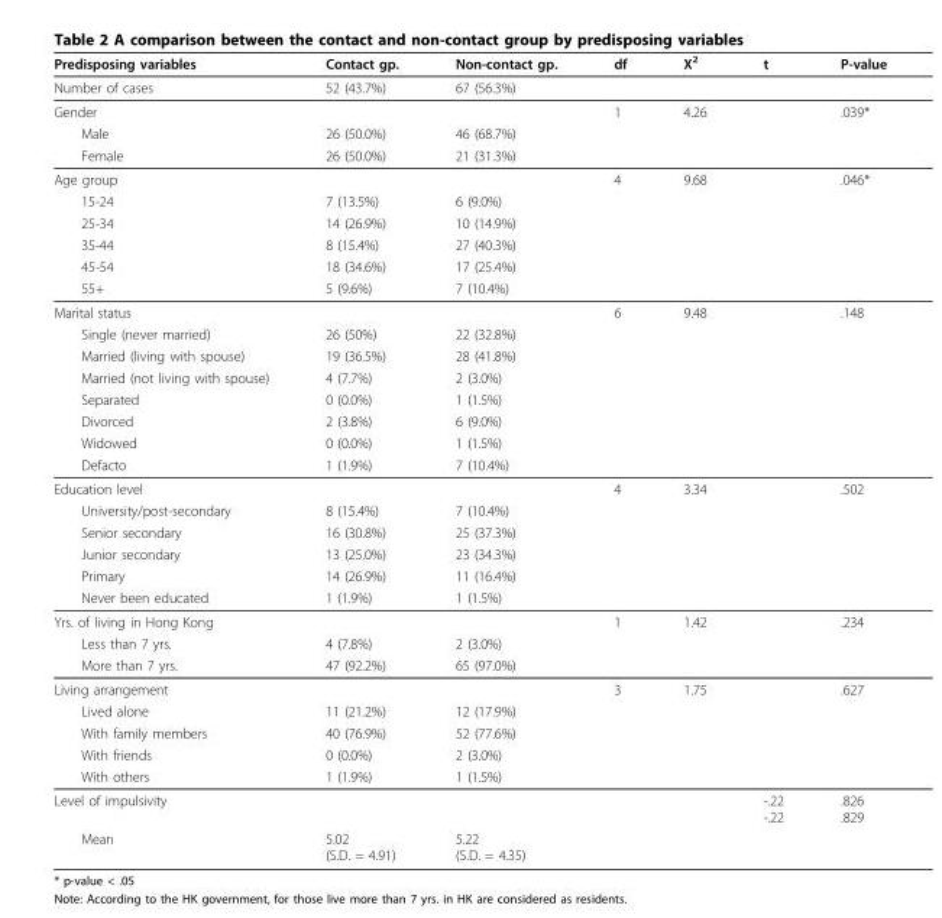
<table><thead><tr><td>Predisposing variables</td><td>Contact gp.</td><td>Non-contact gp.</td><td>df</td><td>X<sup>2</sup></td><td>t</td><td>P-value</td></tr></thead><tbody><tr><td>Number of cases</td><td>52 (43.7%)</td><td>67 (56.3%)</td><td></td><td></td><td></td><td></td></tr><tr><td colspan="3">Gender</td><td>1</td><td>4.26</td><td></td><td>.039*</td></tr><tr><td>Male</td><td>26 (50.0%)</td><td>46 (68.7%)</td><td></td><td></td><td></td><td></td></tr><tr><td>Female</td><td>26 (50.0%)</td><td>21 (31.3%)</td><td></td><td></td><td></td><td></td></tr><tr><td colspan="3">Age group</td><td>4</td><td>9.68</td><td></td><td>.046*</td></tr><tr><td>15-24</td><td>7 (13.5%)</td><td>6 (9.0%)</td><td></td><td></td><td></td><td></td></tr><tr><td>25-34</td><td>14 (26.9%)</td><td>10 (14.9%)</td><td></td><td></td><td></td><td></td></tr><tr><td>35-44</td><td>8 (15.4%)</td><td>27 (40.3%)</td><td></td><td></td><td></td><td></td></tr><tr><td>45-54</td><td>18 (34.6%)</td><td>17 (25.4%)</td><td></td><td></td><td></td><td></td></tr><tr><td>55+</td><td>5 (9.6%)</td><td>7 (10.4%)</td><td></td><td></td><td></td><td></td></tr><tr><td colspan="3">Marital status</td><td>6</td><td>9.48</td><td></td><td>.148</td></tr><tr><td>Single (never married)</td><td>26 (50%)</td><td>22 (32.8%)</td><td></td><td></td><td></td><td></td></tr><tr><td>Married (living with spouse)</td><td>19 (36.5%)</td><td>28 (41.8%)</td><td></td><td></td><td></td><td></td></tr><tr><td>Married (not living with spouse)</td><td>4 (7.7%)</td><td>2 (3.0%)</td><td></td><td></td><td></td><td></td></tr><tr><td>Separated</td><td>0 (0.0%)</td><td>1 (1.5%)</td><td></td><td></td><td></td><td></td></tr><tr><td>Divorced</td><td>2 (3.8%)</td><td>6 (9.0%)</td><td></td><td></td><td></td><td></td></tr><tr><td>Widowed</td><td>0 (0.0%)</td><td>1 (1.5%)</td><td></td><td></td><td></td><td></td></tr><tr><td>Defacto</td><td>1 (1.9%)</td><td>7 (10.4%)</td><td></td><td></td><td></td><td></td></tr><tr><td colspan="3">Education level</td><td>4</td><td>3.34</td><td></td><td>.502</td></tr><tr><td>University/post-secondary</td><td>8 (15.4%)</td><td>7 (10.4%)</td><td></td><td></td><td></td><td></td></tr><tr><td>Senior secondary</td><td>16 (30.8%)</td><td>25 (37.3%)</td><td></td><td></td><td></td><td></td></tr><tr><td>Junior secondary</td><td>13 (25.0%)</td><td>23 (34.3%)</td><td></td><td></td><td></td><td></td></tr><tr><td>Primary</td><td>14 (26.9%)</td><td>11 (16.4%)</td><td></td><td></td><td></td><td></td></tr><tr><td>Never been educated</td><td>1 (1.9%)</td><td>1 (1.5%)</td><td></td><td></td><td></td><td></td></tr><tr><td>Yrs. of living in Hong Kong</td><td></td><td></td><td>1</td><td>1.42</td><td></td><td>.234</td></tr><tr><td>Less than 7 yrs.</td><td>4 (7.8%)</td><td>2 (3.0%)</td><td></td><td></td><td></td><td></td></tr><tr><td>More than 7 yrs.</td><td>47 (92.2%)</td><td>65 (97.0%)</td><td></td><td></td><td></td><td></td></tr><tr><td colspan="3">Living arrangement</td><td>3</td><td>1.75</td><td></td><td>.627</td></tr><tr><td>Lived alone</td><td>11 (21.2%)</td><td>12 (17.9%)</td><td></td><td></td><td></td><td></td></tr><tr><td>With family members</td><td>40 (76.9%)</td><td>52 (77.6%)</td><td></td><td></td><td></td><td></td></tr><tr><td>With friends</td><td>0 (0.0%)</td><td>2 (3.0%)</td><td></td><td></td><td></td><td></td></tr><tr><td>With others</td><td>1 (1.9%)</td><td>1 (1.5%)</td><td></td><td></td><td></td><td></td></tr><tr><td colspan="3">Level of impulsivity</td><td></td><td></td><td>-.22 -.22</td><td>.826 .829</td></tr><tr><td>Mean</td><td>5.02 (S.D. = 4.91)</td><td>5.22 (S.D. = 4.35)</td><td></td><td></td><td></td><td></td></tr></tbody></table>